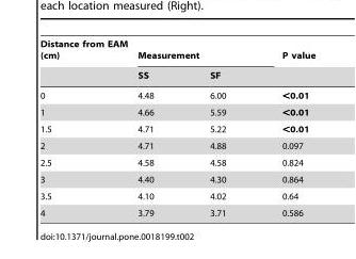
<table><thead><tr><td rowspan="2">Distance from EAM (cm)</td><td colspan="2">Measurement</td><td rowspan="2">P value</td></tr><tr><td>SS</td><td>SF</td></tr></thead><tbody><tr><td>0</td><td>4.48</td><td>6.00</td><td>&lt;0.01</td></tr><tr><td>1</td><td>4.66</td><td>5.59</td><td>&lt;0.01</td></tr><tr><td>1.5</td><td>4.71</td><td>5.22</td><td>&lt;0.01</td></tr><tr><td>2</td><td>4.71</td><td>4.88</td><td>0.097</td></tr><tr><td>2.5</td><td>4.58</td><td>4.58</td><td>0.824</td></tr><tr><td>3</td><td>4.40</td><td>4.30</td><td>0.864</td></tr><tr><td>3.5</td><td>4.10</td><td>4.02</td><td>0.64</td></tr><tr><td>4</td><td>3.79</td><td>3.71</td><td>0.586</td></tr></tbody></table>